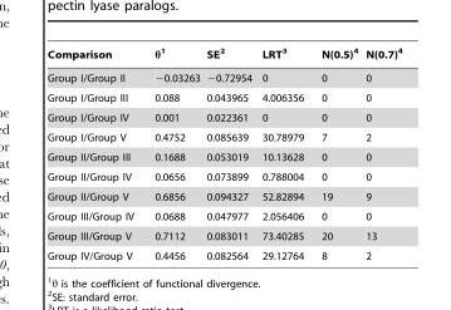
<table><thead><tr><td>Comparison</td><td>θ<sup>1</sup></td><td>SE<sup>2</sup></td><td>LRT<sup>3</sup></td><td>N(0.5)<sup>4</sup></td><td>N(0.7)<sup>4</sup></td></tr></thead><tbody><tr><td>Group I/Group II</td><td>−0.03263</td><td>−0.72954</td><td>0</td><td>0</td><td>0</td></tr><tr><td>Group I/Group III</td><td>0.088</td><td>0.043965</td><td>4.006356</td><td>0</td><td>0</td></tr><tr><td>Group I/Group IV</td><td>0.001</td><td>0.022361</td><td>0</td><td>0</td><td>0</td></tr><tr><td>Group I/Group V</td><td>0.4752</td><td>0.085639</td><td>30.78979</td><td>7</td><td>2</td></tr><tr><td>Group II/Group III</td><td>0.1688</td><td>0.053019</td><td>10.13628</td><td>0</td><td>0</td></tr><tr><td>Group II/Group IV</td><td>0.0656</td><td>0.073899</td><td>0.788004</td><td>0</td><td>0</td></tr><tr><td>Group II/Group V</td><td>0.6856</td><td>0.094327</td><td>52.82894</td><td>19</td><td>9</td></tr><tr><td>Group III/Group IV</td><td>0.0688</td><td>0.047977</td><td>2.056406</td><td>0</td><td>0</td></tr><tr><td>Group III/Group V</td><td>0.7112</td><td>0.083011</td><td>73.40285</td><td>20</td><td>13</td></tr><tr><td>Group IV/Group V</td><td>0.4456</td><td>0.082564</td><td>29.12764</td><td>8</td><td>2</td></tr></tbody></table>